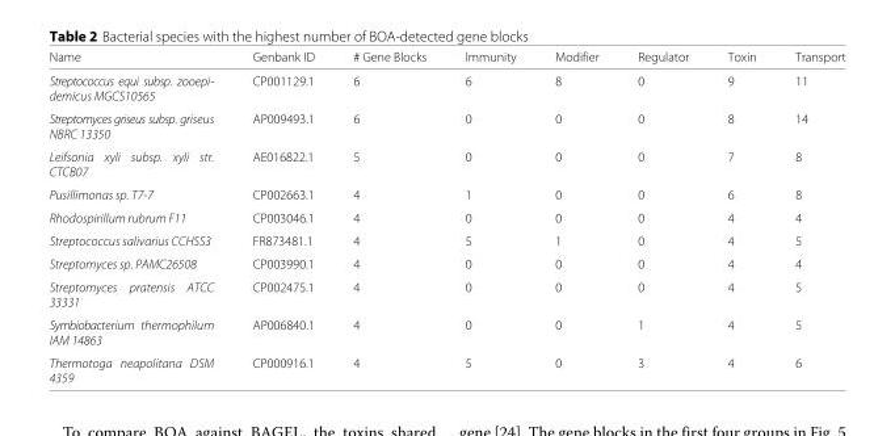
<table><thead><tr><td>Name</td><td>Genbank ID</td><td># Gene Blocks</td><td>Immunity</td><td>Modifier</td><td>Regulator</td><td>Toxin</td><td>Transport</td></tr></thead><tbody><tr><td>Streptococcus equi subsp. zooepi- demicus MGCS10565</td><td>CP001129.1</td><td>6</td><td>6</td><td>8</td><td>0</td><td>9</td><td>11</td></tr><tr><td>Streptomyces griseus subsp. griseus NBRC 13350</td><td>AP009493.1</td><td>6</td><td>0</td><td>0</td><td>0</td><td>8</td><td>14</td></tr><tr><td>Leifsonia xyli subsp. xyli str. CTCB07</td><td>AE016822.1</td><td>5</td><td>0</td><td>0</td><td>0</td><td>7</td><td>8</td></tr><tr><td>Pusillimonas sp. T7-7</td><td>CP002663.1</td><td>4</td><td>1</td><td>0</td><td>0</td><td>6</td><td>8</td></tr><tr><td>Rhodospirillum rubrum F11</td><td>CP003046.1</td><td>4</td><td>0</td><td>0</td><td>0</td><td>4</td><td>4</td></tr><tr><td>Streptococcus salivarius CCHSS3</td><td>FR873481.1</td><td>4</td><td>5</td><td>1</td><td>0</td><td>4</td><td>5</td></tr><tr><td>Streptomyces sp. PAMC26508</td><td>CP003990.1</td><td>4</td><td>0</td><td>0</td><td>0</td><td>4</td><td>4</td></tr><tr><td>Streptomyces pratensis ATCC 33331</td><td>CP002475.1</td><td>4</td><td>0</td><td>0</td><td>0</td><td>4</td><td>5</td></tr><tr><td>Symbiobacterium thermophilum IAM 14863</td><td>AP006840.1</td><td>4</td><td>0</td><td>0</td><td>1</td><td>4</td><td>5</td></tr><tr><td>Thermotoga neapolitana DSM 4359</td><td>CP000916.1</td><td>4</td><td>5</td><td>0</td><td>3</td><td>4</td><td>6</td></tr></tbody></table>